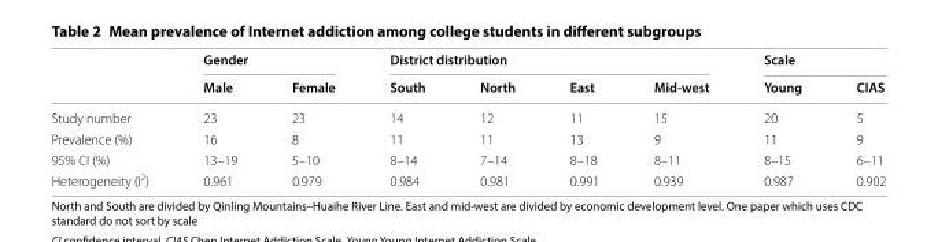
<table><thead><tr><td rowspan="2"></td><td colspan="2">Gender</td><td colspan="4">District distribution</td><td colspan="2">Scale</td></tr><tr><td>Male</td><td>Female</td><td>South</td><td>North</td><td>East</td><td>Mid‑west</td><td>Young</td><td>CIAS</td></tr></thead><tbody><tr><td>Study number</td><td>23</td><td>23</td><td>14</td><td>12</td><td>11</td><td>15</td><td>20</td><td>5</td></tr><tr><td>Prevalence (%)</td><td>16</td><td>8</td><td>11</td><td>11</td><td>13</td><td>9</td><td>11</td><td>9</td></tr><tr><td>95% CI (%)</td><td>13–19</td><td>5–10</td><td>8–14</td><td>7–14</td><td>8–18</td><td>8–11</td><td>8–15</td><td>6–11</td></tr><tr><td>Heterogeneity (I<sup>2</sup>)</td><td>0.961</td><td>0.979</td><td>0.984</td><td>0.981</td><td>0.991</td><td>0.939</td><td>0.987</td><td>0.902</td></tr></tbody></table>